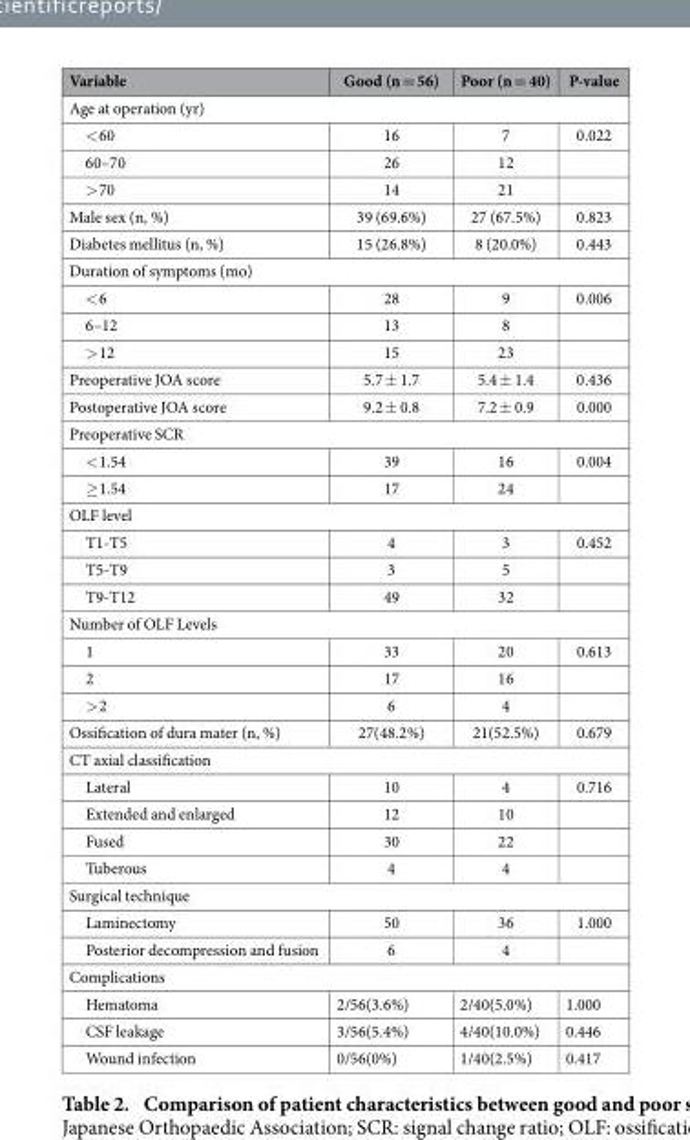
<table><thead><tr><td>Variable</td><td>Good (n = 56)</td><td>Poor (n = 40)</td><td>P-value</td></tr></thead><tbody><tr><td colspan="4">Age at operation (yr)</td></tr><tr><td>&lt; 60</td><td>16</td><td>7</td><td>0.022</td></tr><tr><td>60–70</td><td>26</td><td>12</td><td></td></tr><tr><td>&gt; 70</td><td>14</td><td>21</td><td></td></tr><tr><td>Male sex (n, %)</td><td>39 (69.6%)</td><td>27 (67.5%)</td><td>0.823</td></tr><tr><td>Diabetes mellitus (n, %)</td><td>15 (26.8%)</td><td>8 (20.0%)</td><td>0.443</td></tr><tr><td colspan="4">Duration of symptoms (mo)</td></tr><tr><td>&lt; 6</td><td>28</td><td>9</td><td>0.006</td></tr><tr><td>6–12</td><td>13</td><td>8</td><td></td></tr><tr><td>&gt; 12</td><td>15</td><td>23</td><td></td></tr><tr><td>Preoperative JOA score</td><td>5.7 ± 1.7</td><td>5.4 ± 1.4</td><td>0.436</td></tr><tr><td>Postoperative JOA score</td><td>9.2 ± 0.8</td><td>7.2 ± 0.9</td><td>0.000</td></tr><tr><td colspan="4">Preoperative SCR</td></tr><tr><td>&lt; 1.54</td><td>39</td><td>16</td><td>0.004</td></tr><tr><td>≥ 1.54</td><td>17</td><td>24</td><td></td></tr><tr><td colspan="4">OLF level</td></tr><tr><td>T1-T5</td><td>4</td><td>3</td><td>0.452</td></tr><tr><td>T5-T9</td><td>3</td><td>5</td><td></td></tr><tr><td>T9-T12</td><td>49</td><td>32</td><td></td></tr><tr><td colspan="4">Number of OLF Levels</td></tr><tr><td>1</td><td>33</td><td>20</td><td>0.613</td></tr><tr><td>2</td><td>17</td><td>16</td><td></td></tr><tr><td>&gt; 2</td><td>6</td><td>4</td><td></td></tr><tr><td>Ossification of dura mater (n, %)</td><td>27(48.2%)</td><td>21(52.5%)</td><td>0.679</td></tr><tr><td colspan="4">CT axial classification</td></tr><tr><td>Lateral</td><td>10</td><td>4</td><td>0.716</td></tr><tr><td>Extended and enlarged</td><td>12</td><td>10</td><td></td></tr><tr><td>Fused</td><td>30</td><td>22</td><td></td></tr><tr><td>Tuberous</td><td>4</td><td>4</td><td></td></tr><tr><td colspan="4">Surgical technique</td></tr><tr><td>Laminectomy</td><td>50</td><td>36</td><td>1.000</td></tr><tr><td>Posterior decompression and fusion</td><td>6</td><td>4</td><td></td></tr><tr><td colspan="4">Complications</td></tr><tr><td>Hematoma</td><td>2/56(3.6%)</td><td>2/40(5.0%)</td><td>1.000</td></tr><tr><td>CSF leakage</td><td>3/56(5.4%)</td><td>4/40(10.0%)</td><td>0.446</td></tr><tr><td>Wound infection</td><td>0/56(0%)</td><td>1/40(2.5%)</td><td>0.417</td></tr></tbody></table>